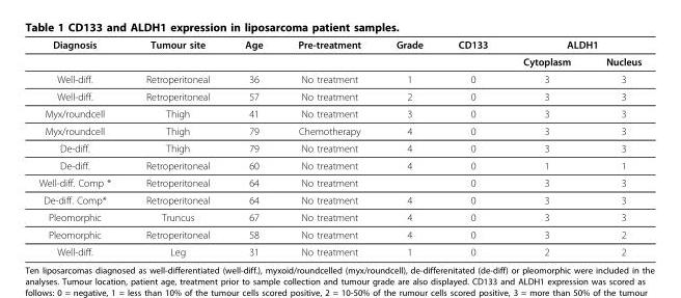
<table><thead><tr><td rowspan="2">Diagnosis</td><td rowspan="2">Tumour site</td><td rowspan="2">Age</td><td rowspan="2">Pre-treatment</td><td rowspan="2">Grade</td><td rowspan="2">CD133</td><td colspan="2">ALDH1</td></tr><tr><td>Cytoplasm</td><td>Nucleus</td></tr></thead><tbody><tr><td>Well-diff.</td><td>Retroperitoneal</td><td>36</td><td>No treatment</td><td>1</td><td>0</td><td>3</td><td>3</td></tr><tr><td>Well-diff.</td><td>Retroperitoneal</td><td>57</td><td>No treatment</td><td>2</td><td>0</td><td>3</td><td>3</td></tr><tr><td>Myx/roundcell</td><td>Thigh</td><td>41</td><td>No treatment</td><td>3</td><td>0</td><td>3</td><td>3</td></tr><tr><td>Myx/roundcell</td><td>Thigh</td><td>79</td><td>Chemotherapy</td><td>4</td><td>0</td><td>3</td><td>3</td></tr><tr><td>De-diff.</td><td>Thigh</td><td>79</td><td>No treatment</td><td>4</td><td>0</td><td>3</td><td>3</td></tr><tr><td>De-diff.</td><td>Retroperitoneal</td><td>60</td><td>No treatment</td><td>4</td><td>0</td><td>1</td><td>1</td></tr><tr><td>Well-diff. Comp *</td><td>Retroperitoneal</td><td>64</td><td>No treatment</td><td></td><td>0</td><td>3</td><td>3</td></tr><tr><td>De-diff. Comp*</td><td>Retroperitoneal</td><td>64</td><td>No treatment</td><td>4</td><td>0</td><td>3</td><td>3</td></tr><tr><td>Pleomorphic</td><td>Truncus</td><td>67</td><td>No treatment</td><td>4</td><td>0</td><td>3</td><td>3</td></tr><tr><td>Pleomorphic</td><td>Retroperitoneal</td><td>58</td><td>No treatment</td><td>4</td><td>0</td><td>3</td><td>2</td></tr><tr><td>Well-diff.</td><td>Leg</td><td>31</td><td>No treatment</td><td>1</td><td>0</td><td>2</td><td>2</td></tr></tbody></table>